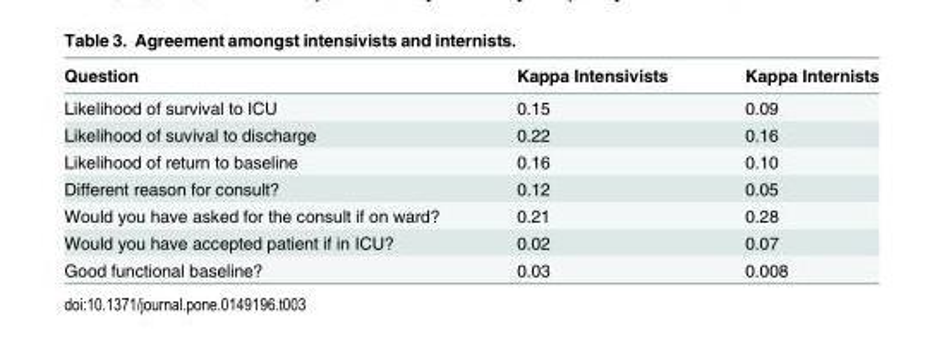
<table><thead><tr><td>Question</td><td>Kappa Intensivists</td><td>Kappa Internists</td></tr></thead><tbody><tr><td>Likelihood of survival to ICU</td><td>0.15</td><td>0.09</td></tr><tr><td>Likelihood of suvival to discharge</td><td>0.22</td><td>0.16</td></tr><tr><td>Likelihood of return to baseline</td><td>0.16</td><td>0.10</td></tr><tr><td>Different reason for consult?</td><td>0.12</td><td>0.05</td></tr><tr><td>Would you have asked for the consult if on ward?</td><td>0.21</td><td>0.28</td></tr><tr><td>Would you have accepted patient if in ICU?</td><td>0.02</td><td>0.07</td></tr><tr><td>Good functional baseline?</td><td>0.03</td><td>0.008</td></tr></tbody></table>